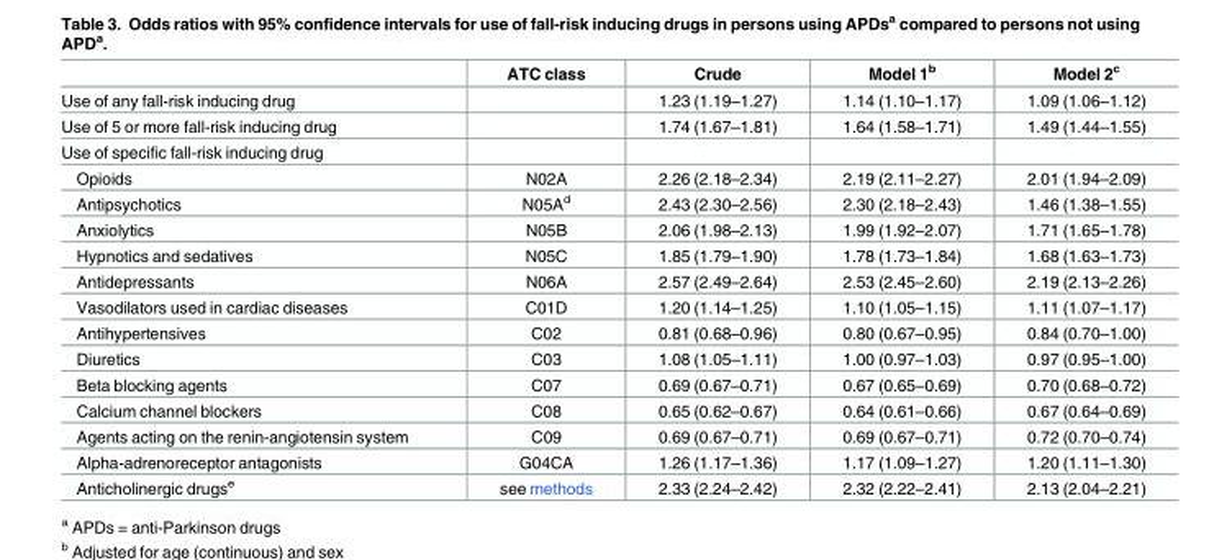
<table><thead><tr><td></td><td>ATC class</td><td>Crude</td><td>Model 1<sup>b</sup></td><td>Model 2<sup>c</sup></td></tr></thead><tbody><tr><td>Use of any fall-risk inducing drug</td><td></td><td>1.23 (1.19–1.27)</td><td>1.14 (1.10–1.17)</td><td>1.09 (1.06–1.12)</td></tr><tr><td>Use of 5 or more fall-risk inducing drug</td><td></td><td>1.74 (1.67–1.81)</td><td>1.64 (1.58–1.71)</td><td>1.49 (1.44–1.55)</td></tr><tr><td colspan="5">Use of specific fall-risk inducing drug</td></tr><tr><td>Opioids</td><td>N02A</td><td>2.26 (2.18–2.34)</td><td>2.19 (2.11–2.27)</td><td>2.01 (1.94–2.09)</td></tr><tr><td>Antipsychotics</td><td>N05A<sup>d</sup></td><td>2.43 (2.30–2.56)</td><td>2.30 (2.18–2.43)</td><td>1.46 (1.38–1.55)</td></tr><tr><td>Anxiolytics</td><td>N05B</td><td>2.06 (1.98–2.13)</td><td>1.99 (1.92–2.07)</td><td>1.71 (1.65–1.78)</td></tr><tr><td>Hypnotics and sedatives</td><td>N05C</td><td>1.85 (1.79–1.90)</td><td>1.78 (1.73–1.84)</td><td>1.68 (1.63–1.73)</td></tr><tr><td>Antidepressants</td><td>N06A</td><td>2.57 (2.49–2.64)</td><td>2.53 (2.45–2.60)</td><td>2.19 (2.13–2.26)</td></tr><tr><td>Vasodilators used in cardiac diseases</td><td>C01D</td><td>1.20 (1.14–1.25)</td><td>1.10 (1.05–1.15)</td><td>1.11 (1.07–1.17)</td></tr><tr><td>Antihypertensives</td><td>C02</td><td>0.81 (0.68–0.96)</td><td>0.80 (0.67–0.95)</td><td>0.84 (0.70–1.00)</td></tr><tr><td>Diuretics</td><td>C03</td><td>1.08 (1.05–1.11)</td><td>1.00 (0.97–1.03)</td><td>0.97 (0.95–1.00)</td></tr><tr><td>Beta blocking agents</td><td>C07</td><td>0.69 (0.67–0.71)</td><td>0.67 (0.65–0.69)</td><td>0.70 (0.68–0.72)</td></tr><tr><td>Calcium channel blockers</td><td>C08</td><td>0.65 (0.62–0.67)</td><td>0.64 (0.61–0.66)</td><td>0.67 (0.64–0.69)</td></tr><tr><td>Agents acting on the renin-angiotensin system</td><td>C09</td><td>0.69 (0.67–0.71)</td><td>0.69 (0.67–0.71)</td><td>0.72 (0.70–0.74)</td></tr><tr><td>Alpha-adrenoreceptor antagonists</td><td>G04CA</td><td>1.26 (1.17–1.36)</td><td>1.17 (1.09–1.27)</td><td>1.20 (1.11–1.30)</td></tr><tr><td>Anticholinergic drugs<sup>e</sup></td><td>see methods</td><td>2.33 (2.24–2.42)</td><td>2.32 (2.22–2.41)</td><td>2.13 (2.04–2.21)</td></tr></tbody></table>